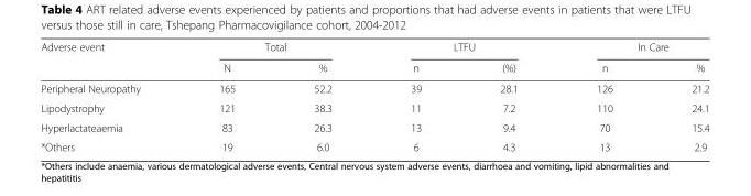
<table><thead><tr><td rowspan="2">Adverse event</td><td colspan="2">Total</td><td colspan="2">LTFU</td><td colspan="2">In Care</td></tr><tr><td>N</td><td>%</td><td>n</td><td>(%)</td><td>n</td><td>%</td></tr></thead><tbody><tr><td>Peripheral Neuropathy</td><td>165</td><td>52.2</td><td>39</td><td>28.1</td><td>126</td><td>21.2</td></tr><tr><td>Lipodystrophy</td><td>121</td><td>38.3</td><td>11</td><td>7.2</td><td>110</td><td>24.1</td></tr><tr><td>Hyperlactateaemia</td><td>83</td><td>26.3</td><td>13</td><td>9.4</td><td>70</td><td>15.4</td></tr><tr><td>*Others</td><td>19</td><td>6.0</td><td>6</td><td>4.3</td><td>13</td><td>2.9</td></tr></tbody></table>